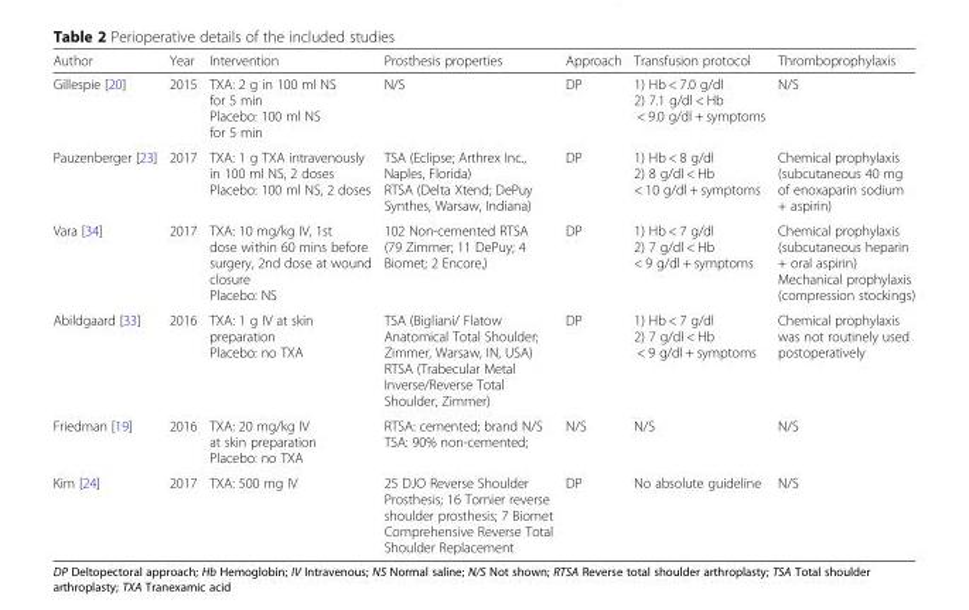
<table><thead><tr><td>Author</td><td>Year</td><td>Intervention</td><td>Prosthesis properties</td><td>Approach</td><td>Transfusion protocol</td><td>Thromboprophylaxis</td></tr></thead><tbody><tr><td>Gillespie [20]</td><td>2015</td><td>TXA: 2 g in 100 ml NS for 5 min Placebo: 100 ml NS for 5 min</td><td>N/S</td><td>DP</td><td>1) Hb &lt; 7.0 g/dl 2) 7.1 g/dl &lt; Hb &lt; 9.0 g/dl + symptoms</td><td>N/S</td></tr><tr><td>Pauzenberger [23]</td><td>2017</td><td>TXA: 1 g TXA intravenously in 100 ml NS, 2 doses Placebo: 100 ml NS, 2 doses</td><td>TSA (Eclipse; Arthrex Inc., Naples, Florida) RTSA (Delta Xtend; DePuy Synthes, Warsaw, Indiana)</td><td>DP</td><td>1) Hb &lt; 8 g/dl 2) 8 g/dl &lt; Hb &lt; 10 g/dl + symptoms</td><td>Chemical prophylaxis (subcutaneous 40 mg of enoxaparin sodium + aspirin)</td></tr><tr><td>Vara [34]</td><td>2017</td><td>TXA: 10 mg/kg IV, 1st dose within 60 mins before surgery, 2nd dose at wound closure Placebo: NS</td><td>102 Non-cemented RTSA (79 Zimmer; 11 DePuy; 4 Biomet; 2 Encore,)</td><td>DP</td><td>1) Hb &lt; 7 g/dl 2) 7 g/dl &lt; Hb &lt; 9 g/dl + symptoms</td><td>Chemical prophylaxis (subcutaneous heparin + oral aspirin) Mechanical prophylaxis (compression stockings)</td></tr><tr><td>Abildgaard [33]</td><td>2016</td><td>TXA: 1 g IV at skin preparation Placebo: no TXA</td><td>TSA (Bigliani/ Flatow Anatomical Total Shoulder; Zimmer, Warsaw, IN, USA) RTSA (Trabecular Metal Inverse/Reverse Total Shoulder, Zimmer)</td><td>DP</td><td>1) Hb &lt; 7 g/dl 2) 7 g/dl &lt; Hb &lt; 9 g/dl + symptoms</td><td>Chemical prophylaxis was not routinely used postoperatively</td></tr><tr><td>Friedman [19]</td><td>2016</td><td>TXA: 20 mg/kg IV at skin preparation Placebo: no TXA</td><td>RTSA: cemented; brand N/S TSA: 90% non-cemented;</td><td>N/S</td><td>N/S</td><td>N/S</td></tr><tr><td>Kim [24]</td><td>2017</td><td>TXA: 500 mg IV</td><td>25 DJO Reverse Shoulder Prosthesis; 16 Tornier reverse shoulder prosthesis; 7 Biomet Comprehensive Reverse Total Shoulder Replacement</td><td>DP</td><td>No absolute guideline</td><td>N/S</td></tr></tbody></table>